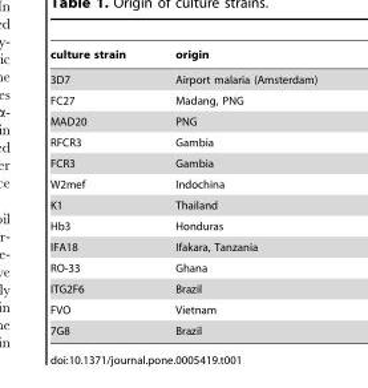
<table><thead><tr><td>culture strain</td><td>origin</td></tr></thead><tbody><tr><td>3D7</td><td>Airport malaria (Amsterdam)</td></tr><tr><td>FC27</td><td>Madang, PNG</td></tr><tr><td>MAD20</td><td>PNG</td></tr><tr><td>RFCR3</td><td>Gambia</td></tr><tr><td>FCR3</td><td>Gambia</td></tr><tr><td>W2mef</td><td>Indochina</td></tr><tr><td>K1</td><td>Thailand</td></tr><tr><td>Hb3</td><td>Honduras</td></tr><tr><td>IFA18</td><td>Ifakara, Tanzania</td></tr><tr><td>RO-33</td><td>Ghana</td></tr><tr><td>ITG2F6</td><td>Brazil</td></tr><tr><td>FVO</td><td>Vietnam</td></tr><tr><td>7G8</td><td>Brazil</td></tr></tbody></table>